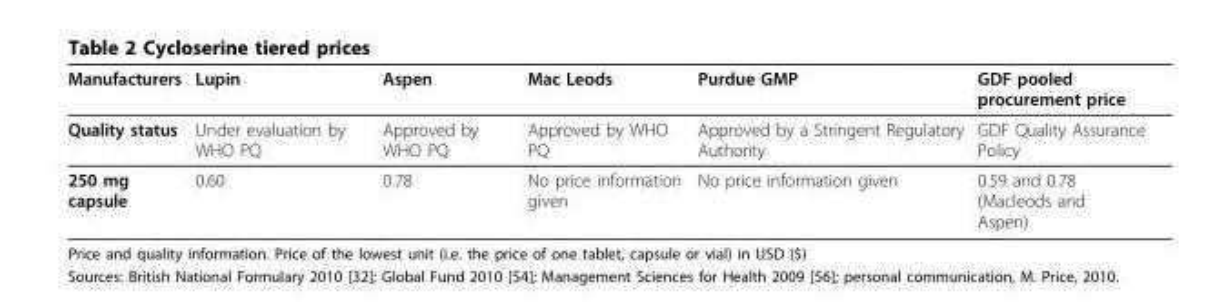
<table><thead><tr><td>Manufacturers</td><td>Lupin</td><td>Aspen</td><td>Mac Leods</td><td>Purdue GMP</td><td>GDF pooled procurement price</td></tr></thead><tbody><tr><td>Quality status</td><td>Under evaluation by WHO PQ</td><td>Approved by WHO PQ</td><td>Approved by WHO PQ</td><td>Approved by a Stringent Regulatory Authority</td><td>GDF Quality Assurance Policy</td></tr><tr><td>250 mg capsule</td><td>0.60</td><td>0.78</td><td>No price information given</td><td>No price information given</td><td>0.59 and 0.78 (Macleods and Aspen)</td></tr></tbody></table>